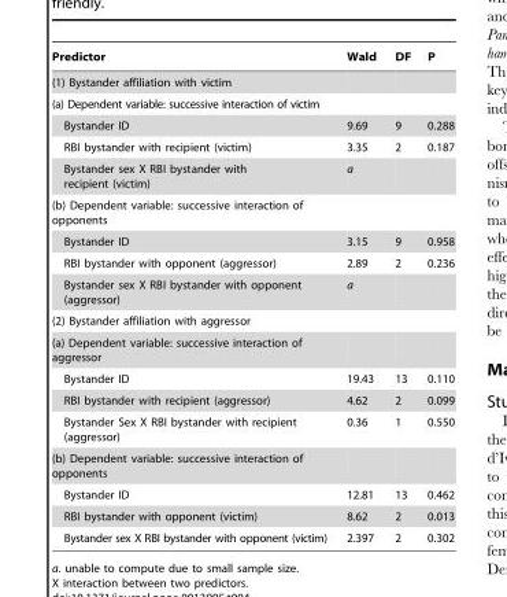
<table><thead><tr><td>Predictor</td><td>Wald</td><td>DF</td><td>P</td></tr></thead><tbody><tr><td colspan="4">(1) Bystander affiliation with victim</td></tr><tr><td colspan="4">(a) Dependent variable: successive interaction of victim</td></tr><tr><td>Bystander ID</td><td>9.69</td><td>9</td><td>0.288</td></tr><tr><td>RBI bystander with recipient (victim)</td><td>3.35</td><td>2</td><td>0.187</td></tr><tr><td>Bystander sex X RBI bystander with recipient (victim)</td><td>a</td><td></td><td></td></tr><tr><td colspan="4">(b) Dependent variable: successive interaction of opponents</td></tr><tr><td>Bystander ID</td><td>3.15</td><td>9</td><td>0.958</td></tr><tr><td>RBI bystander with opponent (aggressor)</td><td>2.89</td><td>2</td><td>0.236</td></tr><tr><td>Bystander sex X RBI bystander with opponent (aggressor)</td><td>a</td><td></td><td></td></tr><tr><td colspan="4">(2) Bystander affiliation with aggressor</td></tr><tr><td colspan="4">(a) Dependent variable: successive interaction of aggressor</td></tr><tr><td>Bystander ID</td><td>19.43</td><td>13</td><td>0.110</td></tr><tr><td>RBI bystander with recipient (aggressor)</td><td>4.62</td><td>2</td><td>0.099</td></tr><tr><td>Bystander Sex X RBI bystander with recipient (aggressor)</td><td>0.36</td><td>1</td><td>0.550</td></tr><tr><td colspan="4">(b) Dependent variable: successive interaction of opponents</td></tr><tr><td>Bystander ID</td><td>12.81</td><td>13</td><td>0.462</td></tr><tr><td>RBI bystander with opponent (victim)</td><td>8.62</td><td>2</td><td>0.013</td></tr><tr><td>Bystander sex X RBI bystander with opponent (victim)</td><td>2.397</td><td>2</td><td>0.302</td></tr></tbody></table>